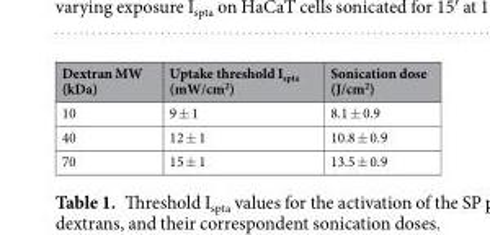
<table><thead><tr><td>Dextran MW (kDa)</td><td>Uptake threshold I<sub>spta</sub> (mW/cm<sup>2</sup>)</td><td>Sonication dose (J/cm<sup>2</sup>)</td></tr></thead><tbody><tr><td>10</td><td>9 ± 1</td><td>8.1 ± 0.9</td></tr><tr><td>40</td><td>12 ± 1</td><td>10.8 ± 0.9</td></tr><tr><td>70</td><td>15 ± 1</td><td>13.5 ± 0.9</td></tr></tbody></table>